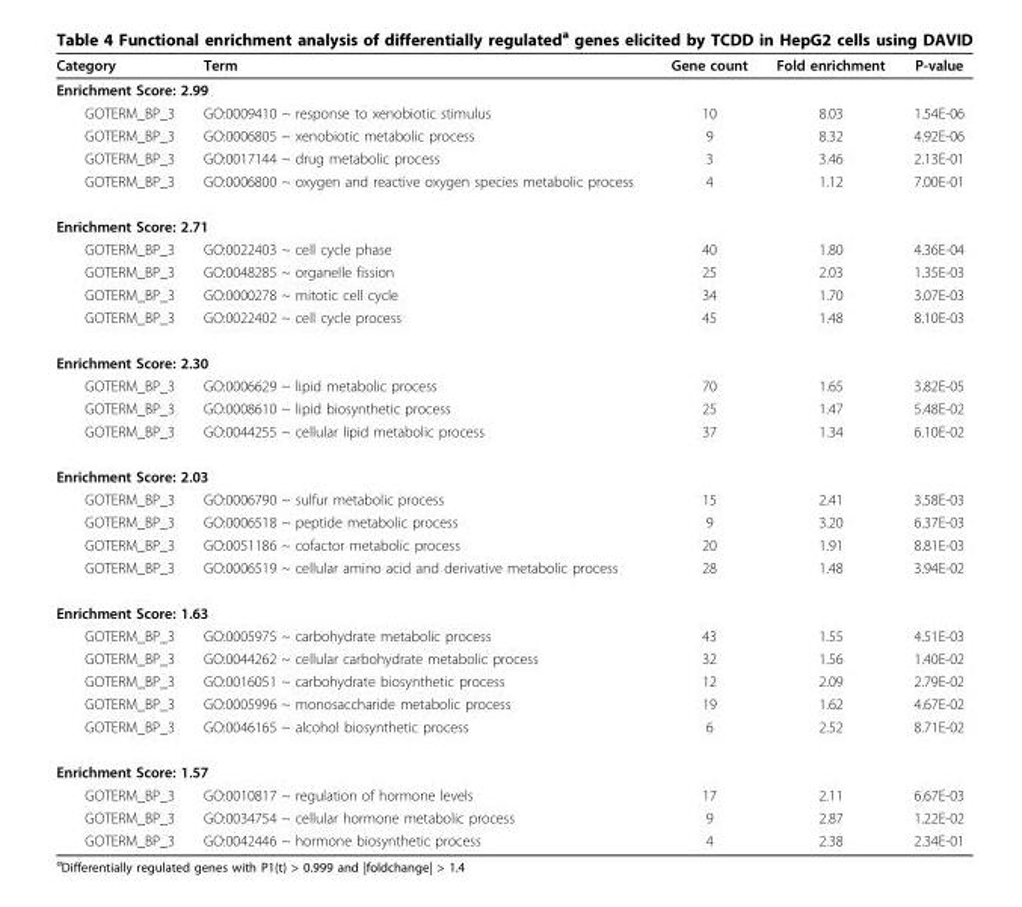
<table><thead><tr><td>Category</td><td>Term</td><td>Gene count</td><td>Fold enrichment</td><td>P-value</td></tr></thead><tbody><tr><td colspan="5">Enrichment Score: 2.99</td></tr><tr><td>GOTERM_BP_3</td><td>GO:0009410 ~ response to xenobiotic stimulus</td><td>10</td><td>8.03</td><td>1.54E-06</td></tr><tr><td>GOTERM_BP_3</td><td>GO:0006805 ~ xenobiotic metabolic process</td><td>9</td><td>8.32</td><td>4.92E-06</td></tr><tr><td>GOTERM_BP_3</td><td>GO:0017144 ~ drug metabolic process</td><td>3</td><td>3.46</td><td>2.13E-01</td></tr><tr><td>GOTERM_BP_3</td><td>GO:0006800 ~ oxygen and reactive oxygen species metabolic process</td><td>4</td><td>1.12</td><td>7.00E-01</td></tr><tr><td colspan="5">Enrichment Score: 2.71</td></tr><tr><td>GOTERM_BP_3</td><td>GO:0022403 ~ cell cycle phase</td><td>40</td><td>1.80</td><td>4.36E-04</td></tr><tr><td>GOTERM_BP_3</td><td>GO:0048285 ~ organelle fission</td><td>25</td><td>2.03</td><td>1.35E-03</td></tr><tr><td>GOTERM_BP_3</td><td>GO:0000278 ~ mitotic cell cycle</td><td>34</td><td>1.70</td><td>3.07E-03</td></tr><tr><td>GOTERM_BP_3</td><td>GO:0022402 ~ cell cycle process</td><td>45</td><td>1.48</td><td>8.10E-03</td></tr><tr><td colspan="5">Enrichment Score: 2.30</td></tr><tr><td>GOTERM_BP_3</td><td>GO:0006629 ~ lipid metabolic process</td><td>70</td><td>1.65</td><td>3.82E-05</td></tr><tr><td>GOTERM_BP_3</td><td>GO:0008610 ~ lipid biosynthetic process</td><td>25</td><td>1.47</td><td>5.48E-02</td></tr><tr><td>GOTERM_BP_3</td><td>GO:0044255 ~ cellular lipid metabolic process</td><td>37</td><td>1.34</td><td>6.10E-02</td></tr><tr><td colspan="5">Enrichment Score: 2.03</td></tr><tr><td>GOTERM_BP_3</td><td>GO:0006790 ~ sulfur metabolic process</td><td>15</td><td>2.41</td><td>3.58E-03</td></tr><tr><td>GOTERM_BP_3</td><td>GO:0006518 ~ peptide metabolic process</td><td>9</td><td>3.20</td><td>6.37E-03</td></tr><tr><td>GOTERM_BP_3</td><td>GO:0051186 ~ cofactor metabolic process</td><td>20</td><td>1.91</td><td>8.81E-03</td></tr><tr><td>GOTERM_BP_3</td><td>GO:0006519 ~ cellular amino acid and derivative metabolic process</td><td>28</td><td>1.48</td><td>3.94E-02</td></tr><tr><td colspan="5">Enrichment Score: 1.63</td></tr><tr><td>GOTERM_BP_3</td><td>GO:0005975 ~ carbohydrate metabolic process</td><td>43</td><td>1.55</td><td>4.51E-03</td></tr><tr><td>GOTERM_BP_3</td><td>GO:0044262 ~ cellular carbohydrate metabolic process</td><td>32</td><td>1.56</td><td>1.40E-02</td></tr><tr><td>GOTERM_BP_3</td><td>GO:0016051 ~ carbohydrate biosynthetic process</td><td>12</td><td>2.09</td><td>2.79E-02</td></tr><tr><td>GOTERM_BP_3</td><td>GO:0005996 ~ monosaccharide metabolic process</td><td>19</td><td>1.62</td><td>4.67E-02</td></tr><tr><td>GOTERM_BP_3</td><td>GO:0046165 ~ alcohol biosynthetic process</td><td>6</td><td>2.52</td><td>8.71E-02</td></tr><tr><td colspan="5">Enrichment Score: 1.57</td></tr><tr><td>GOTERM_BP_3</td><td>GO:0010817 ~ regulation of hormone levels</td><td>17</td><td>2.11</td><td>6.67E-03</td></tr><tr><td>GOTERM_BP_3</td><td>GO:0034754 ~ cellular hormone metabolic process</td><td>9</td><td>2.87</td><td>1.22E-02</td></tr><tr><td>GOTERM_BP_3</td><td>GO:0042446 ~ hormone biosynthetic process</td><td>4</td><td>2.38</td><td>2.34E-01</td></tr></tbody></table>